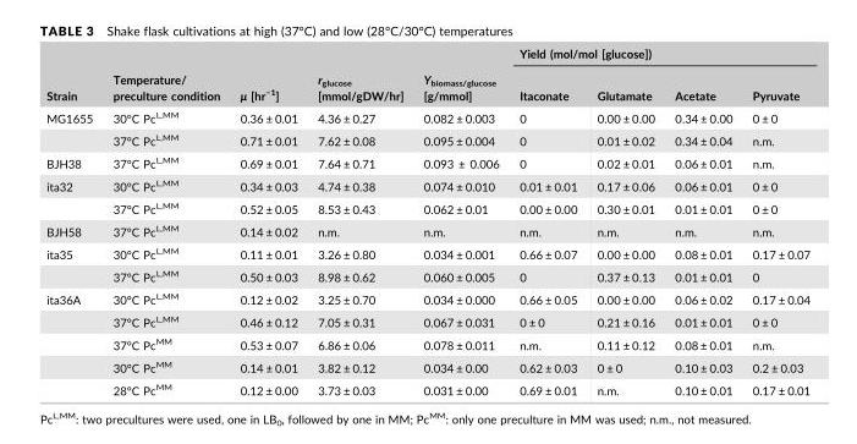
<table><thead><tr><td rowspan="2">Strain</td><td rowspan="2">Temperature/ preculture condition</td><td rowspan="2">μ [hr<sup>−1</sup>]</td><td rowspan="2">r<sub>glucose</sub> [mmol/gDW/hr]</td><td rowspan="2">Y<sub>biomass/glucose</sub> [g/mmol]</td><td colspan="4">Yield (mol/mol [glucose])</td></tr><tr><td>Itaconate</td><td>Glutamate</td><td>Acetate</td><td>Pyruvate</td></tr></thead><tbody><tr><td rowspan="2">MG1655</td><td>30°C Pc<sup>L,MM</sup></td><td>0.36 ± 0.01</td><td>4.36 ± 0.27</td><td>0.082 ± 0.003</td><td>0</td><td>0.00 ± 0.00</td><td>0.34 ± 0.00</td><td>0 ± 0</td></tr><tr><td>37°C Pc<sup>L,MM</sup></td><td>0.71 ± 0.01</td><td>7.62 ± 0.08</td><td>0.095 ± 0.004</td><td>0</td><td>0.01 ± 0.02</td><td>0.34 ± 0.04</td><td>n.m.</td></tr><tr><td>BJH38</td><td>37°C Pc<sup>L,MM</sup></td><td>0.69 ± 0.01</td><td>7.64 ± 0.71</td><td>0.093 ± 0.006</td><td>0</td><td>0.02 ± 0.01</td><td>0.06 ± 0.01</td><td>n.m.</td></tr><tr><td rowspan="2">ita32</td><td>30°C Pc<sup>L,MM</sup></td><td>0.34 ± 0.03</td><td>4.74 ± 0.38</td><td>0.074 ± 0.010</td><td>0.01 ± 0.01</td><td>0.17 ± 0.06</td><td>0.06 ± 0.01</td><td>0 ± 0</td></tr><tr><td>37°C Pc<sup>L,MM</sup></td><td>0.52 ± 0.05</td><td>8.53 ± 0.43</td><td>0.062 ± 0.01</td><td>0.00 ± 0.00</td><td>0.30 ± 0.01</td><td>0.01 ± 0.01</td><td>0 ± 0</td></tr><tr><td>BJH58</td><td>37°C Pc<sup>L,MM</sup></td><td>0.14 ± 0.02</td><td>n.m.</td><td>n.m.</td><td>n.m.</td><td>n.m.</td><td>n.m.</td><td>n.m.</td></tr><tr><td rowspan="2">ita35</td><td>30°C Pc<sup>L,MM</sup></td><td>0.11 ± 0.01</td><td>3.26 ± 0.80</td><td>0.034 ± 0.001</td><td>0.66 ± 0.07</td><td>0.00 ± 0.00</td><td>0.08 ± 0.01</td><td>0.17 ± 0.07</td></tr><tr><td>37°C Pc<sup>L,MM</sup></td><td>0.50 ± 0.03</td><td>8.98 ± 0.62</td><td>0.060 ± 0.005</td><td>0</td><td>0.37 ± 0.13</td><td>0.01 ± 0.01</td><td>0</td></tr><tr><td rowspan="5">ita36A</td><td>30°C Pc<sup>L,MM</sup></td><td>0.12 ± 0.02</td><td>3.25 ± 0.70</td><td>0.034 ± 0.000</td><td>0.66 ± 0.05</td><td>0.00 ± 0.00</td><td>0.06 ± 0.02</td><td>0.17 ± 0.04</td></tr><tr><td>37°C Pc<sup>L,MM</sup></td><td>0.46 ± 0.12</td><td>7.05 ± 0.31</td><td>0.067 ± 0.031</td><td>0 ± 0</td><td>0.21 ± 0.16</td><td>0.01 ± 0.01</td><td>0 ± 0</td></tr><tr><td>37°C Pc<sup>MM</sup></td><td>0.53 ± 0.07</td><td>6.86 ± 0.06</td><td>0.078 ± 0.011</td><td>n.m.</td><td>0.11 ± 0.12</td><td>0.08 ± 0.01</td><td>n.m.</td></tr><tr><td>30°C Pc<sup>MM</sup></td><td>0.14 ± 0.01</td><td>3.82 ± 0.12</td><td>0.034 ± 0.00</td><td>0.62 ± 0.03</td><td>0 ± 0</td><td>0.10 ± 0.03</td><td>0.2 ± 0.03</td></tr><tr><td>28°C Pc<sup>MM</sup></td><td>0.12 ± 0.00</td><td>3.73 ± 0.03</td><td>0.031 ± 0.00</td><td>0.69 ± 0.01</td><td>n.m.</td><td>0.10 ± 0.01</td><td>0.17 ± 0.01</td></tr></tbody></table>